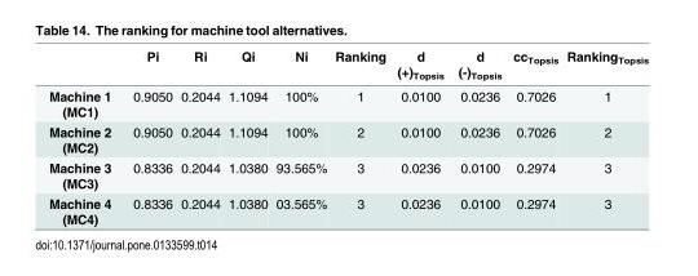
<table><thead><tr><td></td><td>Pi</td><td>Ri</td><td>Qi</td><td>Ni</td><td>Ranking</td><td>d (+)<sub>Topsis</sub></td><td>d (-)<sub>Topsis</sub></td><td>cc<sub>Topsis</sub></td><td>Ranking<sub>Topsis</sub></td></tr></thead><tbody><tr><td>Machine 1 (MC1)</td><td>0.9050</td><td>0.2044</td><td>1.1094</td><td>100%</td><td>1</td><td>0.0100</td><td>0.0236</td><td>0.7026</td><td>1</td></tr><tr><td>Machine 2 (MC2)</td><td>0.9050</td><td>0.2044</td><td>1.1094</td><td>100%</td><td>2</td><td>0.0100</td><td>0.0236</td><td>0.7026</td><td>2</td></tr><tr><td>Machine 3 (MC3)</td><td>0.8336</td><td>0.2044</td><td>1.0380</td><td>93.565%</td><td>3</td><td>0.0236</td><td>0.0100</td><td>0.2974</td><td>3</td></tr><tr><td>Machine 4 (MC4)</td><td>0.8336</td><td>0.2044</td><td>1.0380</td><td>03.565%</td><td>3</td><td>0.0236</td><td>0.0100</td><td>0.2974</td><td>3</td></tr></tbody></table>